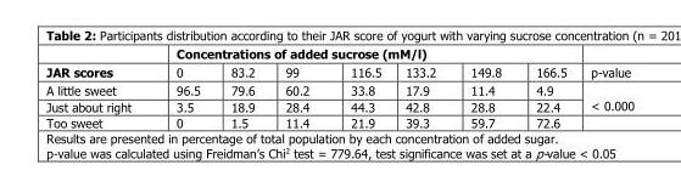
<table><thead><tr><td rowspan="2">JAR scores</td><td colspan="7">Concentrations of added sucrose (mM/l)</td><td rowspan="2">p-value</td></tr><tr><td>0</td><td>83.2</td><td>99</td><td>116.5</td><td>133.2</td><td>149.8</td><td>166.5</td></tr></thead><tbody><tr><td>A little sweet</td><td>96.5</td><td>79.6</td><td>60.2</td><td>33.8</td><td>17.9</td><td>11.4</td><td>4.9</td><td rowspan="2">&lt; 0.000</td></tr><tr><td>Just about right</td><td>3.5</td><td>18.9</td><td>28.4</td><td>44.3</td><td>42.8</td><td>28.8</td><td>22.4</td></tr><tr><td>Too sweet</td><td>0</td><td>1.5</td><td>11.4</td><td>21.9</td><td>39.3</td><td>59.7</td><td>72.6</td><td></td></tr></tbody></table>